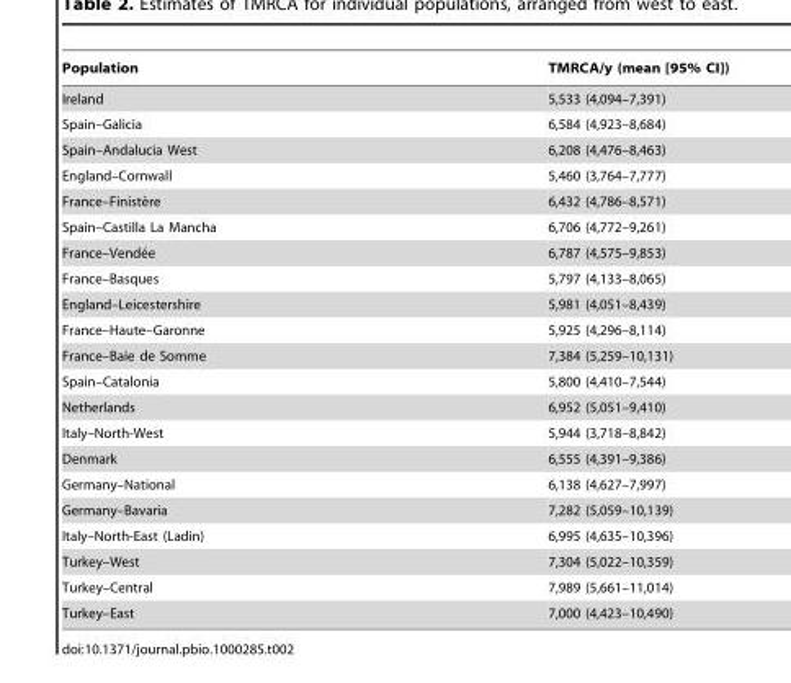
<table><thead><tr><td>Population</td><td>TMRCA/y (mean [95% CI])</td></tr></thead><tbody><tr><td>Ireland</td><td>5,533 (4,094–7,391)</td></tr><tr><td>Spain–Galicia</td><td>6,584 (4,923–8,684)</td></tr><tr><td>Spain–Andalucia West</td><td>6,208 (4,476–8,463)</td></tr><tr><td>England–Cornwall</td><td>5,460 (3,764–7,777)</td></tr><tr><td>France–Finiste`re</td><td>6,432 (4,786–8,571)</td></tr><tr><td>Spain–Castilla La Mancha</td><td>6,706 (4,772–9,261)</td></tr><tr><td>France–Vende´e</td><td>6,787 (4,575–9,853)</td></tr><tr><td>France–Basques</td><td>5,797 (4,133–8,065)</td></tr><tr><td>England–Leicestershire</td><td>5,981 (4,051–8,439)</td></tr><tr><td>France–Haute–Garonne</td><td>5,925 (4,296–8,114)</td></tr><tr><td>France–Baie de Somme</td><td>7,384 (5,259–10,131)</td></tr><tr><td>Spain–Catalonia</td><td>5,800 (4,410–7,544)</td></tr><tr><td>Netherlands</td><td>6,952 (5,051–9,410)</td></tr><tr><td>Italy–North-West</td><td>5,944 (3,718–8,842)</td></tr><tr><td>Denmark</td><td>6,555 (4,391–9,386)</td></tr><tr><td>Germany–National</td><td>6,138 (4,627–7,997)</td></tr><tr><td>Germany–Bavaria</td><td>7,282 (5,059–10,139)</td></tr><tr><td>Italy–North-East (Ladin)</td><td>6,995 (4,635–10,396)</td></tr><tr><td>Turkey–West</td><td>7,304 (5,022–10,359)</td></tr><tr><td>Turkey–Central</td><td>7,989 (5,661–11,014)</td></tr><tr><td>Turkey–East</td><td>7,000 (4,423–10,490)</td></tr></tbody></table>